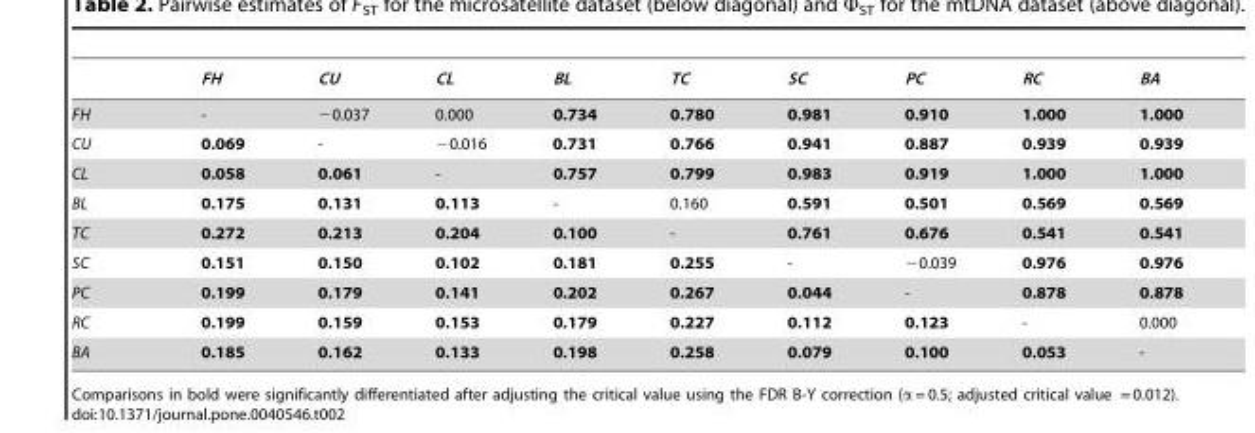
<table><thead><tr><td></td><td>FH</td><td>CU</td><td>CL</td><td>BL</td><td>TC</td><td>SC</td><td>PC</td><td>RC</td><td>BA</td></tr></thead><tbody><tr><td>FH</td><td>-</td><td>−0.037</td><td>0.000</td><td>0.734</td><td>0.780</td><td>0.981</td><td>0.910</td><td>1.000</td><td>1.000</td></tr><tr><td>CU</td><td>0.069</td><td>-</td><td>−0.016</td><td>0.731</td><td>0.766</td><td>0.941</td><td>0.887</td><td>0.939</td><td>0.939</td></tr><tr><td>CL</td><td>0.058</td><td>0.061</td><td>-</td><td>0.757</td><td>0.799</td><td>0.983</td><td>0.919</td><td>1.000</td><td>1.000</td></tr><tr><td>BL</td><td>0.175</td><td>0.131</td><td>0.113</td><td>-</td><td>0.160</td><td>0.591</td><td>0.501</td><td>0.569</td><td>0.569</td></tr><tr><td>TC</td><td>0.272</td><td>0.213</td><td>0.204</td><td>0.100</td><td>-</td><td>0.761</td><td>0.676</td><td>0.541</td><td>0.541</td></tr><tr><td>SC</td><td>0.151</td><td>0.150</td><td>0.102</td><td>0.181</td><td>0.255</td><td>-</td><td>−0.039</td><td>0.976</td><td>0.976</td></tr><tr><td>PC</td><td>0.199</td><td>0.179</td><td>0.141</td><td>0.202</td><td>0.267</td><td>0.044</td><td>-</td><td>0.878</td><td>0.878</td></tr><tr><td>RC</td><td>0.199</td><td>0.159</td><td>0.153</td><td>0.179</td><td>0.227</td><td>0.112</td><td>0.123</td><td>-</td><td>0.000</td></tr><tr><td>BA</td><td>0.185</td><td>0.162</td><td>0.133</td><td>0.198</td><td>0.258</td><td>0.079</td><td>0.100</td><td>0.053</td><td>-</td></tr></tbody></table>